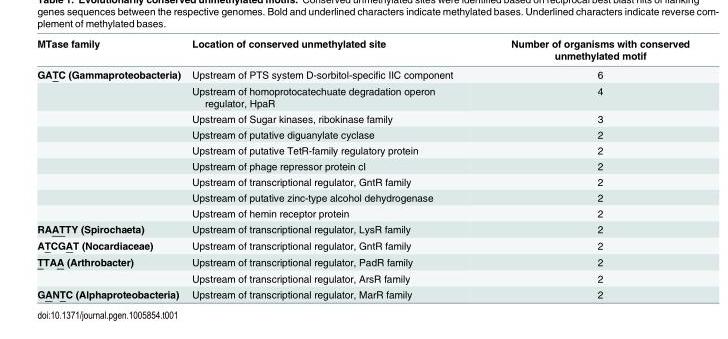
<table><thead><tr><td>MTase family</td><td>Location of conserved unmethylated site</td><td>Number of organisms with conserved unmethylated motif</td></tr></thead><tbody><tr><td rowspan="9">GATC (Gammaproteobacteria)</td><td>Upstream of PTS system D-sorbitol-specific IIC component</td><td>6</td></tr><tr><td>Upstream of homoprotocatechuate degradation operon regulator, HpaR</td><td>4</td></tr><tr><td>Upstream of Sugar kinases, ribokinase family</td><td>3</td></tr><tr><td>Upstream of putative diguanylate cyclase</td><td>2</td></tr><tr><td>Upstream of putative TetR-family regulatory protein</td><td>2</td></tr><tr><td>Upstream of phage repressor protein cI</td><td>2</td></tr><tr><td>Upstream of transcriptional regulator, GntR family</td><td>2</td></tr><tr><td>Upstream of putative zinc-type alcohol dehydrogenase</td><td>2</td></tr><tr><td>Upstream of hemin receptor protein</td><td>2</td></tr><tr><td>RAATTY (Spirochaeta)</td><td>Upstream of transcriptional regulator, LysR family</td><td>2</td></tr><tr><td>ATCGAT (Nocardiaceae)</td><td>Upstream of transcriptional regulator, GntR family</td><td>2</td></tr><tr><td rowspan="2">TTAA (Arthrobacter)</td><td>Upstream of transcriptional regulator, PadR family</td><td>2</td></tr><tr><td>Upstream of transcriptional regulator, ArsR family</td><td>2</td></tr><tr><td>GANTC (Alphaproteobacteria)</td><td>Upstream of transcriptional regulator, MarR family</td><td>2</td></tr></tbody></table>